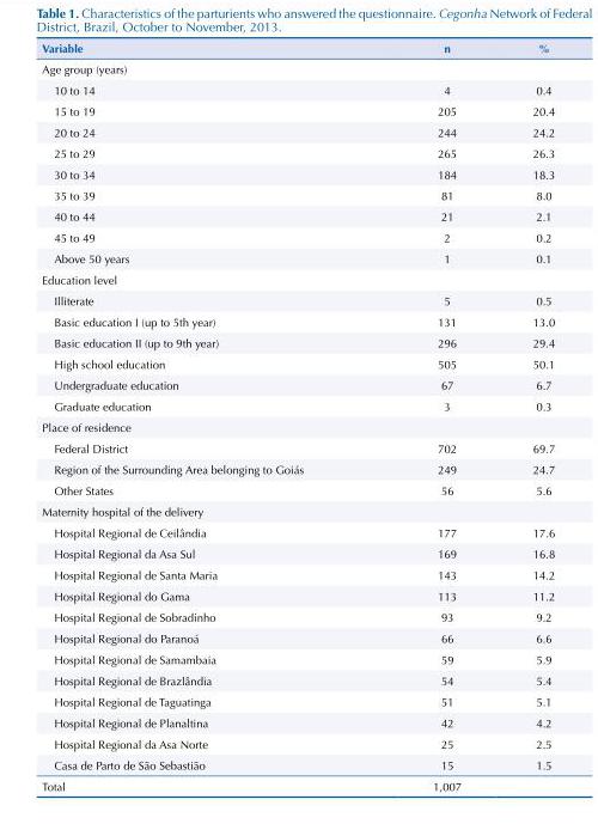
<table><thead><tr><td>Variable</td><td>n</td><td>%</td></tr></thead><tbody><tr><td colspan="3">Age group (years)</td></tr><tr><td>10 to 14</td><td>4</td><td>0.4</td></tr><tr><td>15 to 19</td><td>205</td><td>20.4</td></tr><tr><td>20 to 24</td><td>244</td><td>24.2</td></tr><tr><td>25 to 29</td><td>265</td><td>26.3</td></tr><tr><td>30 to 34</td><td>184</td><td>18.3</td></tr><tr><td>35 to 39</td><td>81</td><td>8.0</td></tr><tr><td>40 to 44</td><td>21</td><td>2.1</td></tr><tr><td>45 to 49</td><td>2</td><td>0.2</td></tr><tr><td>Above 50 years</td><td>1</td><td>0.1</td></tr><tr><td colspan="3">Education level</td></tr><tr><td>Illiterate</td><td>5</td><td>0.5</td></tr><tr><td>Basic education I (up to 5th year)</td><td>131</td><td>13.0</td></tr><tr><td>Basic education II (up to 9th year)</td><td>296</td><td>29.4</td></tr><tr><td>High school education</td><td>505</td><td>50.1</td></tr><tr><td>Undergraduate education</td><td>67</td><td>6.7</td></tr><tr><td>Graduate education</td><td>3</td><td>0.3</td></tr><tr><td colspan="3">Place of residence</td></tr><tr><td>Federal District</td><td>702</td><td>69.7</td></tr><tr><td>Region of the Surrounding Area belonging to Goiás</td><td>249</td><td>24.7</td></tr><tr><td>Other States</td><td>56</td><td>5.6</td></tr><tr><td colspan="3">Maternity hospital of the delivery</td></tr><tr><td>Hospital Regional de Ceilândia</td><td>177</td><td>17.6</td></tr><tr><td>Hospital Regional da Asa Sul</td><td>169</td><td>16.8</td></tr><tr><td>Hospital Regional de Santa Maria</td><td>143</td><td>14.2</td></tr><tr><td>Hospital Regional do Gama</td><td>113</td><td>11.2</td></tr><tr><td>Hospital Regional de Sobradinho</td><td>93</td><td>9.2</td></tr><tr><td>Hospital Regional do Paranoá</td><td>66</td><td>6.6</td></tr><tr><td>Hospital Regional de Samambaia</td><td>59</td><td>5.9</td></tr><tr><td>Hospital Regional de Brazlândia</td><td>54</td><td>5.4</td></tr><tr><td>Hospital Regional de Taguatinga</td><td>51</td><td>5.1</td></tr><tr><td>Hospital Regional de Planaltina</td><td>42</td><td>4.2</td></tr><tr><td>Hospital Regional da Asa Norte</td><td>25</td><td>2.5</td></tr><tr><td>Casa de Parto de São Sebastião</td><td>15</td><td>1.5</td></tr><tr><td>Total</td><td>1,007</td><td></td></tr></tbody></table>